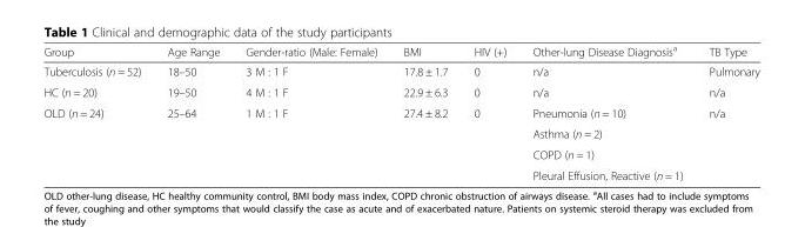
<table><thead><tr><td>Group</td><td>Age Range</td><td>Gender-ratio (Male: Female)</td><td>BMI</td><td>HIV (+)</td><td>Other-lung Disease Diagnosis<sup>a</sup></td><td>TB Type</td></tr></thead><tbody><tr><td>Tuberculosis (n = 52)</td><td>18–50</td><td>3 M : 1 F</td><td>17.8 ± 1.7</td><td>0</td><td>n/a</td><td>Pulmonary</td></tr><tr><td>HC (n = 20)</td><td>19–50</td><td>4 M : 1 F</td><td>22.9 ± 6.3</td><td>0</td><td>n/a</td><td>n/a</td></tr><tr><td rowspan="4">OLD (n = 24)</td><td>25–64</td><td>1 M : 1 F</td><td>27.4 ± 8.2</td><td>0</td><td>Pneumonia (n = 10)</td><td>n/a</td></tr><tr><td></td><td></td><td></td><td></td><td>Asthma (n = 2)</td><td></td></tr><tr><td></td><td></td><td></td><td></td><td>COPD (n = 1)</td><td></td></tr><tr><td></td><td></td><td></td><td></td><td>Pleural Effusion, Reactive (n = 1)</td><td></td></tr></tbody></table>